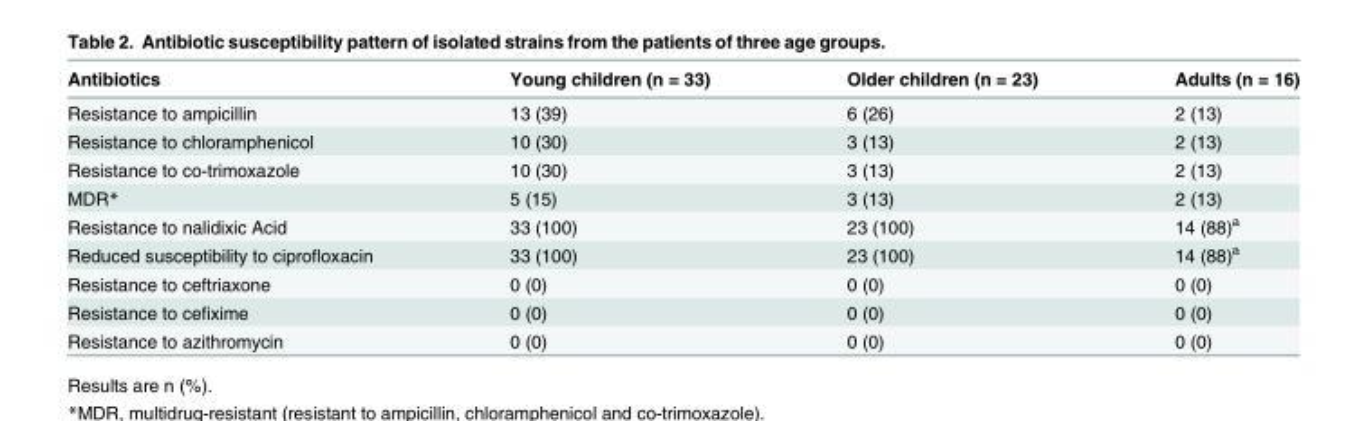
<table><thead><tr><td>Antibiotics</td><td>Young children (n = 33)</td><td>Older children (n = 23)</td><td>Adults (n = 16)</td></tr></thead><tbody><tr><td>Resistance to ampicillin</td><td>13 (39)</td><td>6 (26)</td><td>2 (13)</td></tr><tr><td>Resistance to chloramphenicol</td><td>10 (30)</td><td>3 (13)</td><td>2 (13)</td></tr><tr><td>Resistance to co-trimoxazole</td><td>10 (30)</td><td>3 (13)</td><td>2 (13)</td></tr><tr><td>MDR*</td><td>5 (15)</td><td>3 (13)</td><td>2 (13)</td></tr><tr><td>Resistance to nalidixic Acid</td><td>33 (100)</td><td>23 (100)</td><td>14 (88)<sup>a</sup></td></tr><tr><td>Reduced susceptibility to ciprofloxacin</td><td>33 (100)</td><td>23 (100)</td><td>14 (88)<sup>a</sup></td></tr><tr><td>Resistance to ceftriaxone</td><td>0 (0)</td><td>0 (0)</td><td>0 (0)</td></tr><tr><td>Resistance to cefixime</td><td>0 (0)</td><td>0 (0)</td><td>0 (0)</td></tr><tr><td>Resistance to azithromycin</td><td>0 (0)</td><td>0 (0)</td><td>0 (0)</td></tr></tbody></table>